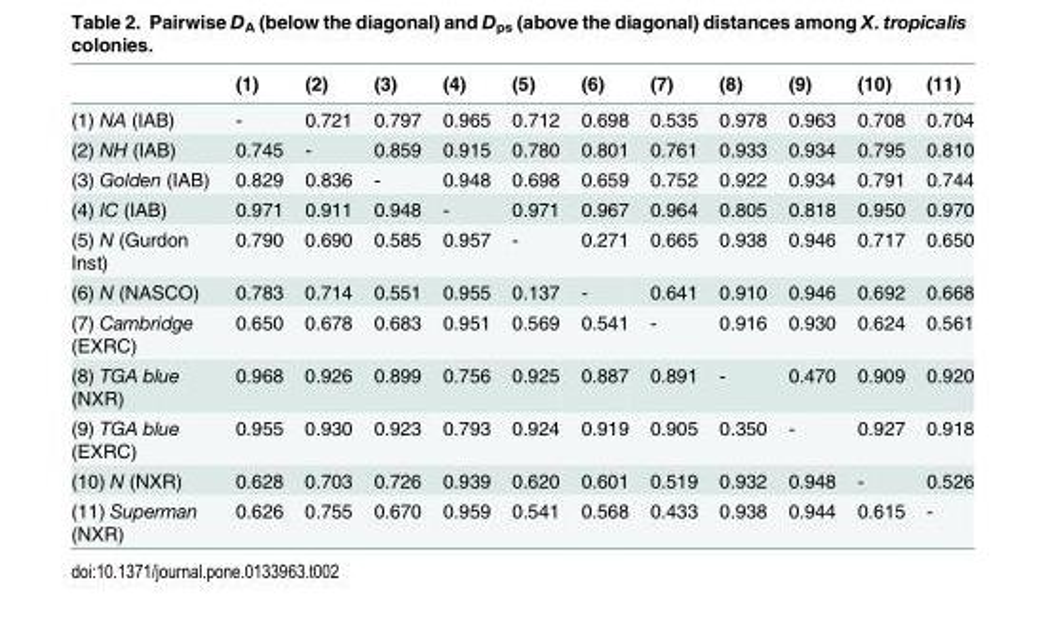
<table><thead><tr><td></td><td>(1)</td><td>(2)</td><td>(3)</td><td>(4)</td><td>(5)</td><td>(6)</td><td>(7)</td><td>(8)</td><td>(9)</td><td>(10)</td><td>(11)</td></tr></thead><tbody><tr><td>(1) NA (IAB)</td><td>-</td><td>0.721</td><td>0.797</td><td>0.965</td><td>0.712</td><td>0.698</td><td>0.535</td><td>0.978</td><td>0.963</td><td>0.708</td><td>0.704</td></tr><tr><td>(2) NH (IAB)</td><td>0.745</td><td>-</td><td>0.859</td><td>0.915</td><td>0.780</td><td>0.801</td><td>0.761</td><td>0.933</td><td>0.934</td><td>0.795</td><td>0.810</td></tr><tr><td>(3) Golden (IAB)</td><td>0.829</td><td>0.836</td><td>-</td><td>0.948</td><td>0.698</td><td>0.659</td><td>0.752</td><td>0.922</td><td>0.934</td><td>0.791</td><td>0.744</td></tr><tr><td>(4) IC (IAB)</td><td>0.971</td><td>0.911</td><td>0.948</td><td>-</td><td>0.971</td><td>0.967</td><td>0.964</td><td>0.805</td><td>0.818</td><td>0.950</td><td>0.970</td></tr><tr><td>(5) N (Gurdon Inst)</td><td>0.790</td><td>0.690</td><td>0.585</td><td>0.957</td><td>-</td><td>0.271</td><td>0.665</td><td>0.938</td><td>0.946</td><td>0.717</td><td>0.650</td></tr><tr><td>(6) N (NASCO)</td><td>0.783</td><td>0.714</td><td>0.551</td><td>0.955</td><td>0.137</td><td>-</td><td>0.641</td><td>0.910</td><td>0.946</td><td>0.692</td><td>0.668</td></tr><tr><td>(7) Cambridge (EXRC)</td><td>0.650</td><td>0.678</td><td>0.683</td><td>0.951</td><td>0.569</td><td>0.541</td><td>-</td><td>0.916</td><td>0.930</td><td>0.624</td><td>0.561</td></tr><tr><td>(8) TGA blue (NXR)</td><td>0.968</td><td>0.926</td><td>0.899</td><td>0.756</td><td>0.925</td><td>0.887</td><td>0.891</td><td>-</td><td>0.470</td><td>0.909</td><td>0.920</td></tr><tr><td>(9) TGA blue (EXRC)</td><td>0.955</td><td>0.930</td><td>0.923</td><td>0.793</td><td>0.924</td><td>0.919</td><td>0.905</td><td>0.350</td><td>-</td><td>0.927</td><td>0.918</td></tr><tr><td>(10) N (NXR)</td><td>0.628</td><td>0.703</td><td>0.726</td><td>0.939</td><td>0.620</td><td>0.601</td><td>0.519</td><td>0.932</td><td>0.948</td><td>-</td><td>0.526</td></tr><tr><td>(11) Superman (NXR)</td><td>0.626</td><td>0.755</td><td>0.670</td><td>0.959</td><td>0.541</td><td>0.568</td><td>0.433</td><td>0.938</td><td>0.944</td><td>0.615</td><td>-</td></tr></tbody></table>